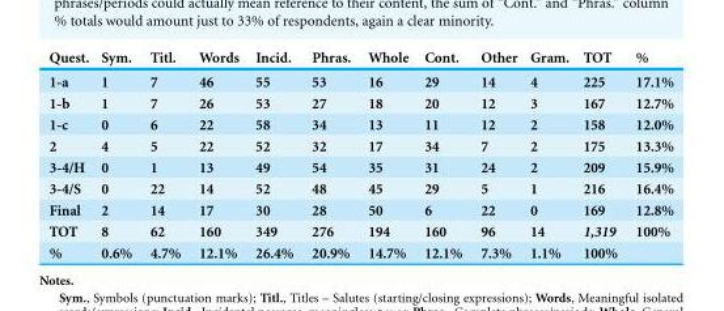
<table><thead><tr><td>Quest.</td><td>Sym.</td><td>Titl.</td><td>Words</td><td>Incid.</td><td>Phras.</td><td>Whole</td><td>Cont.</td><td>Other</td><td>Gram.</td><td>TOT</td><td>%</td></tr></thead><tbody><tr><td>1-a</td><td>1</td><td>7</td><td>46</td><td>55</td><td>53</td><td>16</td><td>29</td><td>14</td><td>4</td><td>225</td><td>17.1%</td></tr><tr><td>1-b</td><td>1</td><td>7</td><td>26</td><td>53</td><td>27</td><td>18</td><td>20</td><td>12</td><td>3</td><td>167</td><td>12.7%</td></tr><tr><td>1-c</td><td>0</td><td>6</td><td>22</td><td>58</td><td>34</td><td>13</td><td>11</td><td>12</td><td>2</td><td>158</td><td>12.0%</td></tr><tr><td>2</td><td>4</td><td>5</td><td>22</td><td>52</td><td>32</td><td>17</td><td>34</td><td>7</td><td>2</td><td>175</td><td>13.3%</td></tr><tr><td>3-4/H</td><td>0</td><td>1</td><td>13</td><td>49</td><td>54</td><td>35</td><td>31</td><td>24</td><td>2</td><td>209</td><td>15.9%</td></tr><tr><td>3-4/S</td><td>0</td><td>22</td><td>14</td><td>52</td><td>48</td><td>45</td><td>29</td><td>5</td><td>1</td><td>216</td><td>16.4%</td></tr><tr><td>Final</td><td>2</td><td>14</td><td>17</td><td>30</td><td>28</td><td>50</td><td>6</td><td>22</td><td>0</td><td>169</td><td>12.8%</td></tr><tr><td>TOT</td><td>8</td><td>62</td><td>160</td><td>349</td><td>276</td><td>194</td><td>160</td><td>96</td><td>14</td><td>1,319</td><td>100%</td></tr><tr><td>%</td><td>0.6%</td><td>4.7%</td><td>12.1%</td><td>26.4%</td><td>20.9%</td><td>14.7%</td><td>12.1%</td><td>7.3%</td><td>1.1%</td><td>100%</td><td></td></tr></tbody></table>